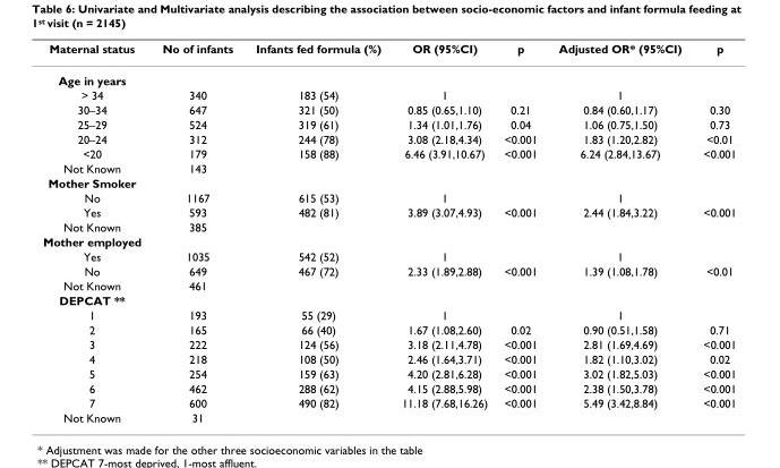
<table><thead><tr><td>Maternal status</td><td>No of infants</td><td>Infants fed formula (%)</td><td>OR (95%CI)</td><td>p</td><td>Adjusted OR* (95%CI)</td><td>p</td></tr></thead><tbody><tr><td colspan="7">Age in years</td></tr><tr><td>&gt; 34</td><td>340</td><td>183 (54)</td><td>1</td><td></td><td>1</td><td></td></tr><tr><td>30–34</td><td>647</td><td>321 (50)</td><td>0.85 (0.65,1.10)</td><td>0.21</td><td>0.84 (0.60,1.17)</td><td>0.30</td></tr><tr><td>25–29</td><td>524</td><td>319 (61)</td><td>1.34 (1.01,1.76)</td><td>0.04</td><td>1.06 (0.75,1.50)</td><td>0.73</td></tr><tr><td>20–24</td><td>312</td><td>244 (78)</td><td>3.08 (2.18,4.34)</td><td>&lt;0.001</td><td>1.83 (1.20,2.82)</td><td>&lt;0.01</td></tr><tr><td>&lt;20</td><td>179</td><td>158 (88)</td><td>6.46 (3.91,10.67)</td><td>&lt;0.001</td><td>6.24 (2.84,13.67)</td><td>&lt;0.001</td></tr><tr><td>Not Known</td><td>143</td><td></td><td></td><td></td><td></td><td></td></tr><tr><td colspan="7">Mother Smoker</td></tr><tr><td>No</td><td>1167</td><td>615 (53)</td><td>1</td><td></td><td>1</td><td></td></tr><tr><td>Yes</td><td>593</td><td>482 (81)</td><td>3.89 (3.07,4.93)</td><td>&lt;0.001</td><td>2.44 (1.84,3.22)</td><td>&lt;0.001</td></tr><tr><td>Not Known</td><td>385</td><td></td><td></td><td></td><td></td><td></td></tr><tr><td colspan="7">Mother employed</td></tr><tr><td>Yes</td><td>1035</td><td>542 (52)</td><td>1</td><td></td><td>1</td><td></td></tr><tr><td>No</td><td>649</td><td>467 (72)</td><td>2.33 (1.89,2.88)</td><td>&lt;0.001</td><td>1.39 (1.08,1.78)</td><td>&lt;0.01</td></tr><tr><td>Not Known</td><td>461</td><td></td><td></td><td></td><td></td><td></td></tr><tr><td colspan="7">DEPCAT **</td></tr><tr><td>1</td><td>193</td><td>55 (29)</td><td>1</td><td></td><td>1</td><td></td></tr><tr><td>2</td><td>165</td><td>66 (40)</td><td>1.67 (1.08,2.60)</td><td>0.02</td><td>0.90 (0.51,1.58)</td><td>0.71</td></tr><tr><td>3</td><td>222</td><td>124 (56)</td><td>3.18 (2.11,4.78)</td><td>&lt;0.001</td><td>2.81 (1.69,4.69)</td><td>&lt;0.001</td></tr><tr><td>4</td><td>218</td><td>108 (50)</td><td>2.46 (1.64,3.71)</td><td>&lt;0.001</td><td>1.82 (1.10,3.02)</td><td>0.02</td></tr><tr><td>5</td><td>254</td><td>159 (63)</td><td>4.20 (2.81,6.28)</td><td>&lt;0.001</td><td>3.02 (1.82,5.03)</td><td>&lt;0.001</td></tr><tr><td>6</td><td>462</td><td>288 (62)</td><td>4.15 (2.88,5.98)</td><td>&lt;0.001</td><td>2.38 (1.50,3.78)</td><td>&lt;0.001</td></tr><tr><td>7</td><td>600</td><td>490 (82)</td><td>11.18 (7.68,16.26)</td><td>&lt;0.001</td><td>5.49 (3.42,8.84)</td><td>&lt;0.001</td></tr><tr><td>Not Known</td><td>31</td><td></td><td></td><td></td><td></td><td></td></tr></tbody></table>